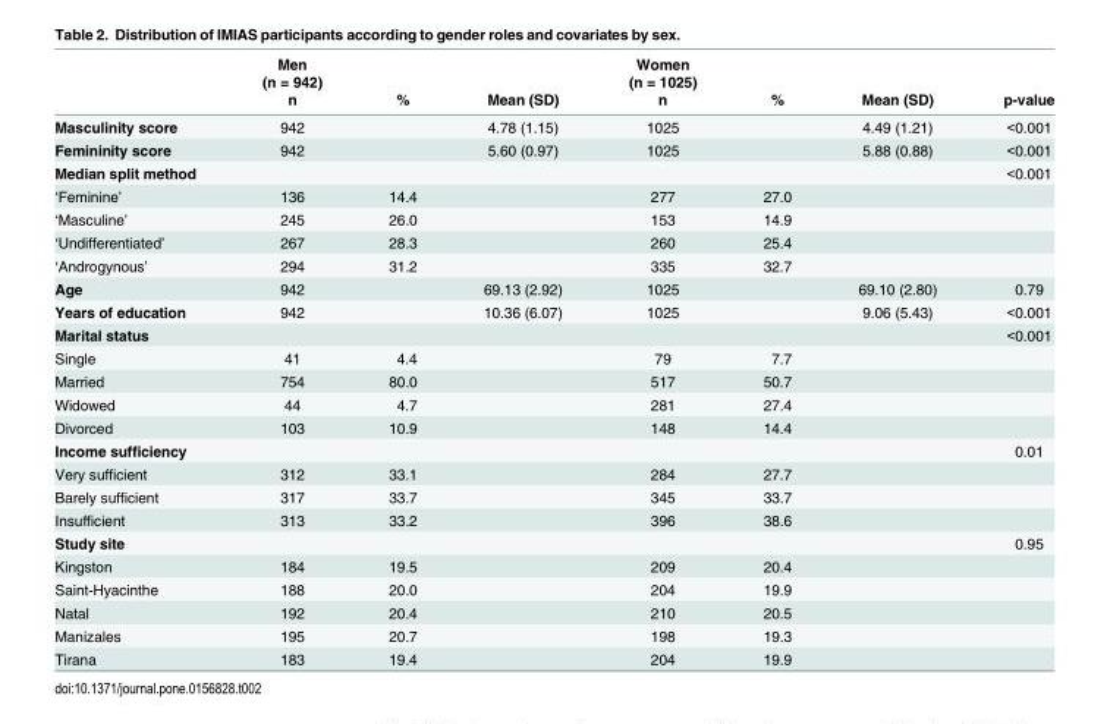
<table><thead><tr><td rowspan="3"></td><td rowspan="3">Men (n = 942) n</td><td rowspan="3">%</td><td rowspan="3">Mean (SD)</td><td rowspan="3">Women (n = 1025) n</td><td rowspan="3">%</td><td rowspan="3">Mean (SD)</td><td rowspan="3">p-value</td></tr><tr></tr><tr></tr></thead><tbody><tr><td>Masculinity score</td><td>942</td><td></td><td>4.78 (1.15)</td><td>1025</td><td></td><td>4.49 (1.21)</td><td>&lt;0.001</td></tr><tr><td>Femininity score</td><td>942</td><td></td><td>5.60 (0.97)</td><td>1025</td><td></td><td>5.88 (0.88)</td><td>&lt;0.001</td></tr><tr><td>Median split method</td><td></td><td></td><td></td><td></td><td></td><td></td><td>&lt;0.001</td></tr><tr><td>‘Feminine’</td><td>136</td><td>14.4</td><td></td><td>277</td><td>27.0</td><td></td><td></td></tr><tr><td>‘Masculine’</td><td>245</td><td>26.0</td><td></td><td>153</td><td>14.9</td><td></td><td></td></tr><tr><td>‘Undifferentiated’</td><td>267</td><td>28.3</td><td></td><td>260</td><td>25.4</td><td></td><td></td></tr><tr><td>‘Androgynous’</td><td>294</td><td>31.2</td><td></td><td>335</td><td>32.7</td><td></td><td></td></tr><tr><td>Age</td><td>942</td><td></td><td>69.13 (2.92)</td><td>1025</td><td></td><td>69.10 (2.80)</td><td>0.79</td></tr><tr><td>Years of education</td><td>942</td><td></td><td>10.36 (6.07)</td><td>1025</td><td></td><td>9.06 (5.43)</td><td>&lt;0.001</td></tr><tr><td>Marital status</td><td></td><td></td><td></td><td></td><td></td><td></td><td>&lt;0.001</td></tr><tr><td>Single</td><td>41</td><td>4.4</td><td></td><td>79</td><td>7.7</td><td></td><td></td></tr><tr><td>Married</td><td>754</td><td>80.0</td><td></td><td>517</td><td>50.7</td><td></td><td></td></tr><tr><td>Widowed</td><td>44</td><td>4.7</td><td></td><td>281</td><td>27.4</td><td></td><td></td></tr><tr><td>Divorced</td><td>103</td><td>10.9</td><td></td><td>148</td><td>14.4</td><td></td><td></td></tr><tr><td>Income sufficiency</td><td></td><td></td><td></td><td></td><td></td><td></td><td>0.01</td></tr><tr><td>Very sufficient</td><td>312</td><td>33.1</td><td></td><td>284</td><td>27.7</td><td></td><td></td></tr><tr><td>Barely sufficient</td><td>317</td><td>33.7</td><td></td><td>345</td><td>33.7</td><td></td><td></td></tr><tr><td>Insufficient</td><td>313</td><td>33.2</td><td></td><td>396</td><td>38.6</td><td></td><td></td></tr><tr><td>Study site</td><td></td><td></td><td></td><td></td><td></td><td></td><td>0.95</td></tr><tr><td>Kingston</td><td>184</td><td>19.5</td><td></td><td>209</td><td>20.4</td><td></td><td></td></tr><tr><td>Saint-Hyacinthe</td><td>188</td><td>20.0</td><td></td><td>204</td><td>19.9</td><td></td><td></td></tr><tr><td>Natal</td><td>192</td><td>20.4</td><td></td><td>210</td><td>20.5</td><td></td><td></td></tr><tr><td>Manizales</td><td>195</td><td>20.7</td><td></td><td>198</td><td>19.3</td><td></td><td></td></tr><tr><td>Tirana</td><td>183</td><td>19.4</td><td></td><td>204</td><td>19.9</td><td></td><td></td></tr></tbody></table>